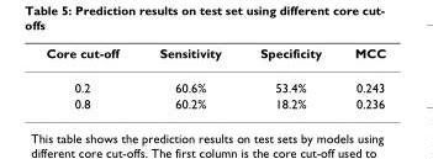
<table><thead><tr><td>Core cut-off</td><td>Sensitivity</td><td>Specificity</td><td>MCC</td></tr></thead><tbody><tr><td>0.2</td><td>60.6%</td><td>53.4%</td><td>0.243</td></tr><tr><td>0.8</td><td>60.2%</td><td>18.2%</td><td>0.236</td></tr></tbody></table>